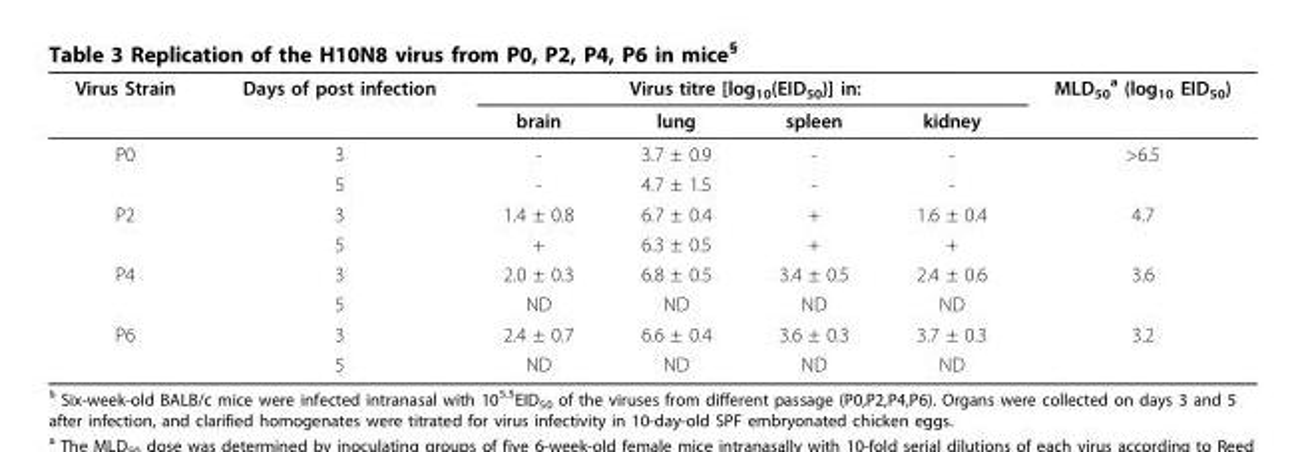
<table><thead><tr><td rowspan="2">Virus Strain</td><td rowspan="2">Days of post infection</td><td colspan="4">Virus titre [log<sub>10</sub>(EID<sub>50</sub>)] in:</td><td rowspan="2">MLD<sub>50</sub> <sup>a</sup> (log<sub>10</sub> EID<sub>50</sub>)</td></tr><tr><td>brain</td><td>lung</td><td>spleen</td><td>kidney</td></tr></thead><tbody><tr><td rowspan="2">P0</td><td>3</td><td>-</td><td>3.7 ± 0.9</td><td>-</td><td>-</td><td>&gt;6.5</td></tr><tr><td>5</td><td>-</td><td>4.7 ± 1.5</td><td>-</td><td>-</td><td></td></tr><tr><td rowspan="2">P2</td><td>3</td><td>1.4 ± 0.8</td><td>6.7 ± 0.4</td><td>+</td><td>1.6 ± 0.4</td><td>4.7</td></tr><tr><td>5</td><td>+</td><td>6.3 ± 0.5</td><td>+</td><td>+</td><td></td></tr><tr><td rowspan="2">P4</td><td>3</td><td>2.0 ± 0.3</td><td>6.8 ± 0.5</td><td>3.4 ± 0.5</td><td>2.4 ± 0.6</td><td>3.6</td></tr><tr><td>5</td><td>ND</td><td>ND</td><td>ND</td><td>ND</td><td></td></tr><tr><td rowspan="2">P6</td><td>3</td><td>2.4 ± 0.7</td><td>6.6 ± 0.4</td><td>3.6 ± 0.3</td><td>3.7 ± 0.3</td><td>3.2</td></tr><tr><td>5</td><td>ND</td><td>ND</td><td>ND</td><td>ND</td><td></td></tr></tbody></table>